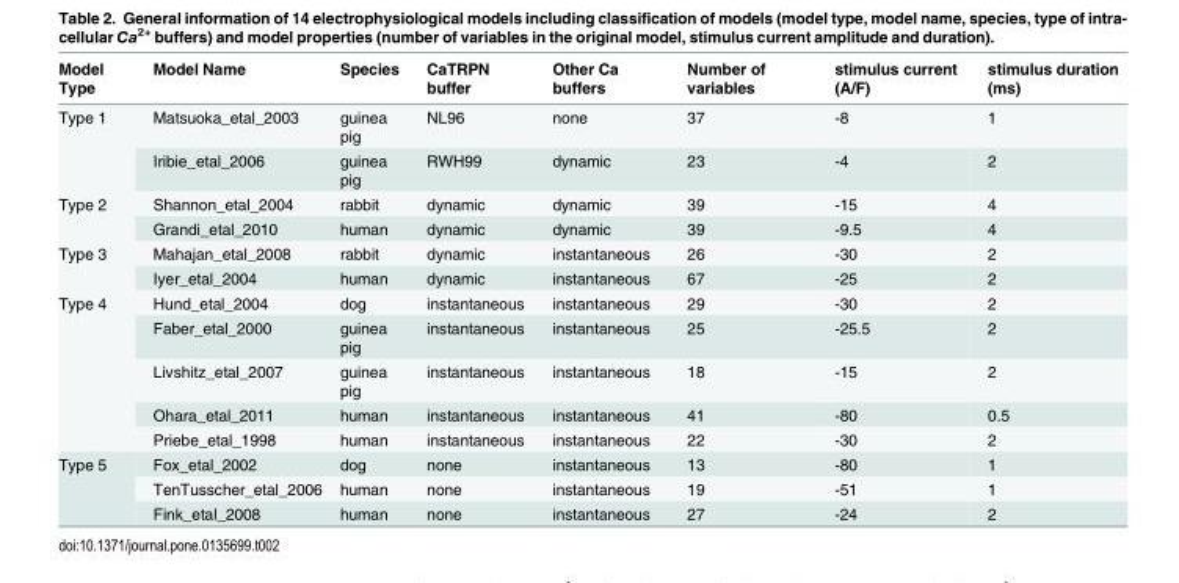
<table><thead><tr><td>Model Type</td><td>Model Name</td><td>Species</td><td>CaTRPN buffer</td><td>Other Ca buffers</td><td>Number of variables</td><td>stimulus current (A/F)</td><td>stimulus duration (ms)</td></tr></thead><tbody><tr><td rowspan="2">Type 1</td><td>Matsuoka_etal_2003</td><td>guinea pig</td><td>NL96</td><td>none</td><td>37</td><td>-8</td><td>1</td></tr><tr><td>Iribie_etal_2006</td><td>guinea pig</td><td>RWH99</td><td>dynamic</td><td>23</td><td>-4</td><td>2</td></tr><tr><td rowspan="2">Type 2</td><td>Shannon_etal_2004</td><td>rabbit</td><td>dynamic</td><td>dynamic</td><td>39</td><td>-15</td><td>4</td></tr><tr><td>Grandi_etal_2010</td><td>human</td><td>dynamic</td><td>dynamic</td><td>39</td><td>-9.5</td><td>4</td></tr><tr><td rowspan="2">Type 3</td><td>Mahajan_etal_2008</td><td>rabbit</td><td>dynamic</td><td>instantaneous</td><td>26</td><td>-30</td><td>2</td></tr><tr><td>Iyer_etal_2004</td><td>human</td><td>dynamic</td><td>instantaneous</td><td>67</td><td>-25</td><td>2</td></tr><tr><td rowspan="5">Type 4</td><td>Hund_etal_2004</td><td>dog</td><td>instantaneous</td><td>instantaneous</td><td>29</td><td>-30</td><td>2</td></tr><tr><td>Faber_etal_2000</td><td>guinea pig</td><td>instantaneous</td><td>instantaneous</td><td>25</td><td>-25.5</td><td>2</td></tr><tr><td>Livshitz_etal_2007</td><td>guinea pig</td><td>instantaneous</td><td>instantaneous</td><td>18</td><td>-15</td><td>2</td></tr><tr><td>Ohara_etal_2011</td><td>human</td><td>instantaneous</td><td>instantaneous</td><td>41</td><td>-80</td><td>0.5</td></tr><tr><td>Priebe_etal_1998</td><td>human</td><td>instantaneous</td><td>instantaneous</td><td>22</td><td>-30</td><td>2</td></tr><tr><td rowspan="3">Type 5</td><td>Fox_etal_2002</td><td>dog</td><td>none</td><td>instantaneous</td><td>13</td><td>-80</td><td>1</td></tr><tr><td>TenTusscher_etal_2006</td><td>human</td><td>none</td><td>instantaneous</td><td>19</td><td>-51</td><td>1</td></tr><tr><td>Fink_etal_2008</td><td>human</td><td>none</td><td>instantaneous</td><td>27</td><td>-24</td><td>2</td></tr></tbody></table>